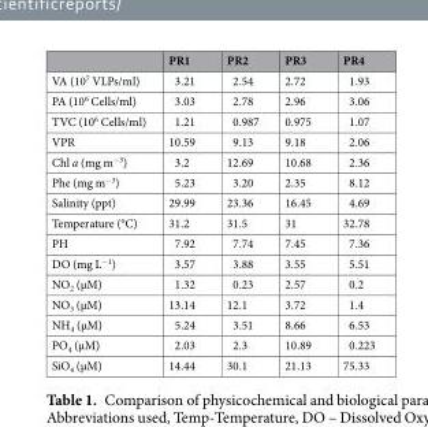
<table><thead><tr><td></td><td>PR1</td><td>PR2</td><td>PR3</td><td>PR4</td></tr></thead><tbody><tr><td>VA (10<sup>7</sup> VLPs/ml)</td><td>3.21</td><td>2.54</td><td>2.72</td><td>1.93</td></tr><tr><td>PA (10<sup>6</sup> Cells/ml)</td><td>3.03</td><td>2.78</td><td>2.96</td><td>3.06</td></tr><tr><td>TVC (10<sup>6</sup> Cells/ml)</td><td>1.21</td><td>0.987</td><td>0.975</td><td>1.07</td></tr><tr><td>VPR</td><td>10.59</td><td>9.13</td><td>9.18</td><td>2.06</td></tr><tr><td>Chl a (mg m<sup>−3</sup>)</td><td>3.2</td><td>12.69</td><td>10.68</td><td>2.36</td></tr><tr><td>Phe (mg m<sup>−3</sup>)</td><td>5.23</td><td>3.20</td><td>2.35</td><td>8.12</td></tr><tr><td>Salinity (ppt)</td><td>29.99</td><td>23.36</td><td>16.45</td><td>4.69</td></tr><tr><td>Temperature (°C)</td><td>31.2</td><td>31.5</td><td>31</td><td>32.78</td></tr><tr><td>PH</td><td>7.92</td><td>7.74</td><td>7.45</td><td>7.36</td></tr><tr><td>DO (mg L<sup>−1</sup>)</td><td>3.57</td><td>3.88</td><td>3.55</td><td>5.51</td></tr><tr><td>NO<sub>2</sub> (μM)</td><td>1.32</td><td>0.23</td><td>2.57</td><td>0.2</td></tr><tr><td>NO<sub>3</sub> (μM)</td><td>13.14</td><td>12.1</td><td>3.72</td><td>1.4</td></tr><tr><td>NH<sub>4</sub> (μM)</td><td>5.24</td><td>3.51</td><td>8.66</td><td>6.53</td></tr><tr><td>PO<sub>4</sub> (μM)</td><td>2.03</td><td>2.3</td><td>10.89</td><td>0.223</td></tr><tr><td>SiO<sub>4</sub> (μM)</td><td>14.44</td><td>30.1</td><td>21.13</td><td>75.33</td></tr></tbody></table>